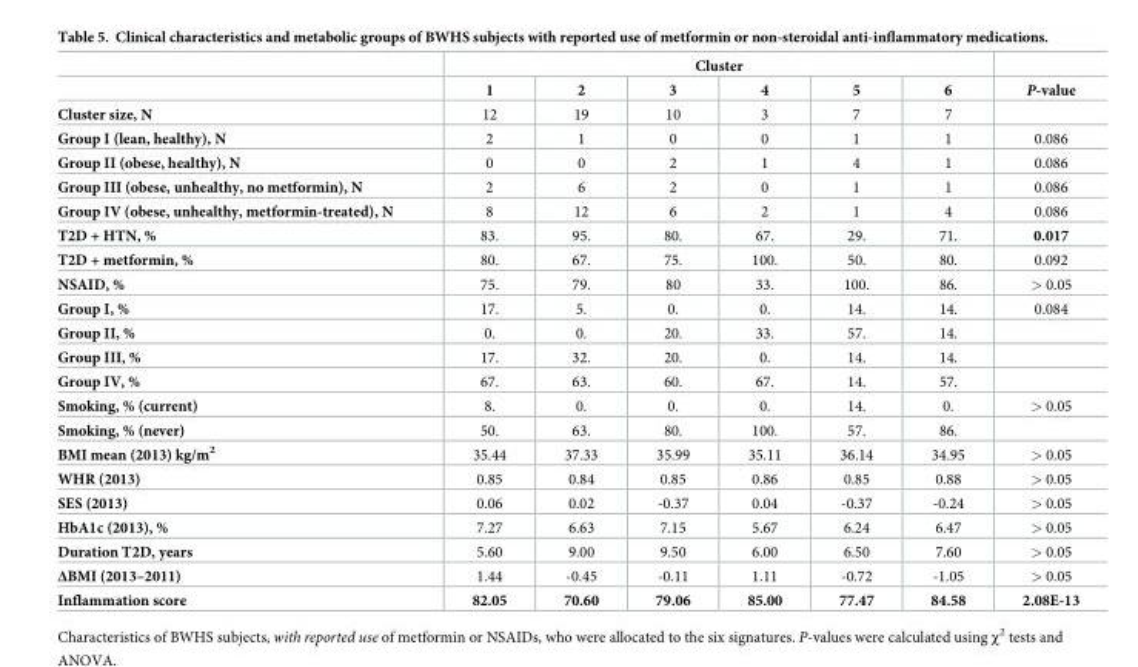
<table><thead><tr><td rowspan="2"></td><td colspan="6">Cluster</td><td rowspan="2">P-value</td></tr><tr><td>1</td><td>2</td><td>3</td><td>4</td><td>5</td><td>6</td></tr></thead><tbody><tr><td>Cluster size, N</td><td>12</td><td>19</td><td>10</td><td>3</td><td>7</td><td>7</td><td></td></tr><tr><td>Group I (lean, healthy), N</td><td>2</td><td>1</td><td>0</td><td>0</td><td>1</td><td>1</td><td>0.086</td></tr><tr><td>Group II (obese, healthy), N</td><td>0</td><td>0</td><td>2</td><td>1</td><td>4</td><td>1</td><td>0.086</td></tr><tr><td>Group III (obese, unhealthy, no metformin), N</td><td>2</td><td>6</td><td>2</td><td>0</td><td>1</td><td>1</td><td>0.086</td></tr><tr><td>Group IV (obese, unhealthy, metformin-treated), N</td><td>8</td><td>12</td><td>6</td><td>2</td><td>1</td><td>4</td><td>0.086</td></tr><tr><td>T2D + HTN, %</td><td>83.</td><td>95.</td><td>80.</td><td>67.</td><td>29.</td><td>71.</td><td>0.017</td></tr><tr><td>T2D + metformin, %</td><td>80.</td><td>67.</td><td>75.</td><td>100.</td><td>50.</td><td>80.</td><td>0.092</td></tr><tr><td>NSAID, %</td><td>75.</td><td>79.</td><td>80</td><td>33.</td><td>100.</td><td>86.</td><td>&gt; 0.05</td></tr><tr><td>Group I, %</td><td>17.</td><td>5.</td><td>0.</td><td>0.</td><td>14.</td><td>14.</td><td>0.084</td></tr><tr><td>Group II, %</td><td>0.</td><td>0.</td><td>20.</td><td>33.</td><td>57.</td><td>14.</td><td></td></tr><tr><td>Group III, %</td><td>17.</td><td>32.</td><td>20.</td><td>0.</td><td>14.</td><td>14.</td><td></td></tr><tr><td>Group IV, %</td><td>67.</td><td>63.</td><td>60.</td><td>67.</td><td>14.</td><td>57.</td><td></td></tr><tr><td>Smoking, % (current)</td><td>8.</td><td>0.</td><td>0.</td><td>0.</td><td>14.</td><td>0.</td><td>&gt; 0.05</td></tr><tr><td>Smoking, % (never)</td><td>50.</td><td>63.</td><td>80.</td><td>100.</td><td>57.</td><td>86.</td><td></td></tr><tr><td>BMI mean (2013) kg/m<sup>2</sup></td><td>35.44</td><td>37.33</td><td>35.99</td><td>35.11</td><td>36.14</td><td>34.95</td><td>&gt; 0.05</td></tr><tr><td>WHR (2013)</td><td>0.85</td><td>0.84</td><td>0.85</td><td>0.86</td><td>0.85</td><td>0.88</td><td>&gt; 0.05</td></tr><tr><td>SES (2013)</td><td>0.06</td><td>0.02</td><td>-0.37</td><td>0.04</td><td>-0.37</td><td>-0.24</td><td>&gt; 0.05</td></tr><tr><td>HbA1c (2013), %</td><td>7.27</td><td>6.63</td><td>7.15</td><td>5.67</td><td>6.24</td><td>6.47</td><td>&gt; 0.05</td></tr><tr><td>Duration T2D, years</td><td>5.60</td><td>9.00</td><td>9.50</td><td>6.00</td><td>6.50</td><td>7.60</td><td>&gt; 0.05</td></tr><tr><td>ΔBMI (2013–2011)</td><td>1.44</td><td>-0.45</td><td>-0.11</td><td>1.11</td><td>-0.72</td><td>-1.05</td><td>&gt; 0.05</td></tr><tr><td>Inflammation score</td><td>82.05</td><td>70.60</td><td>79.06</td><td>85.00</td><td>77.47</td><td>84.58</td><td>2.08E-13</td></tr></tbody></table>